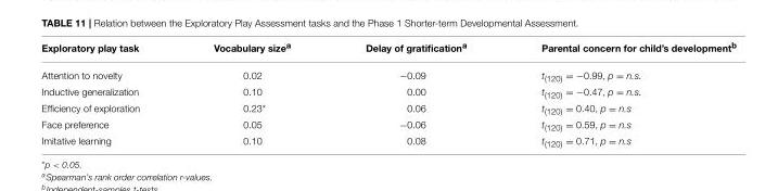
<table><thead><tr><td>Exploratory play task</td><td>Vocabulary size<sup>a</sup></td><td>Delay of gratification<sup>a</sup></td><td>Parental concern for child’s development<sup>b</sup></td></tr></thead><tbody><tr><td>Attention to novelty</td><td>0.02</td><td>−0.09</td><td>t<sub>(120)</sub> = −0.99, p = n.s.</td></tr><tr><td>Inductive generalization</td><td>0.10</td><td>0.00</td><td>t<sub>(120)</sub> = −0.47, p = n.s.</td></tr><tr><td>Efficiency of exploration</td><td>0.23*</td><td>0.06</td><td>t<sub>(120)</sub> = 0.40, p = n.s</td></tr><tr><td>Face preference</td><td>0.05</td><td>−0.06</td><td>t<sub>(120)</sub> = 0.59, p = n.s</td></tr><tr><td>Imitative learning</td><td>0.10</td><td>0.08</td><td>t<sub>(120)</sub> = 0.71, p = n.s</td></tr></tbody></table>